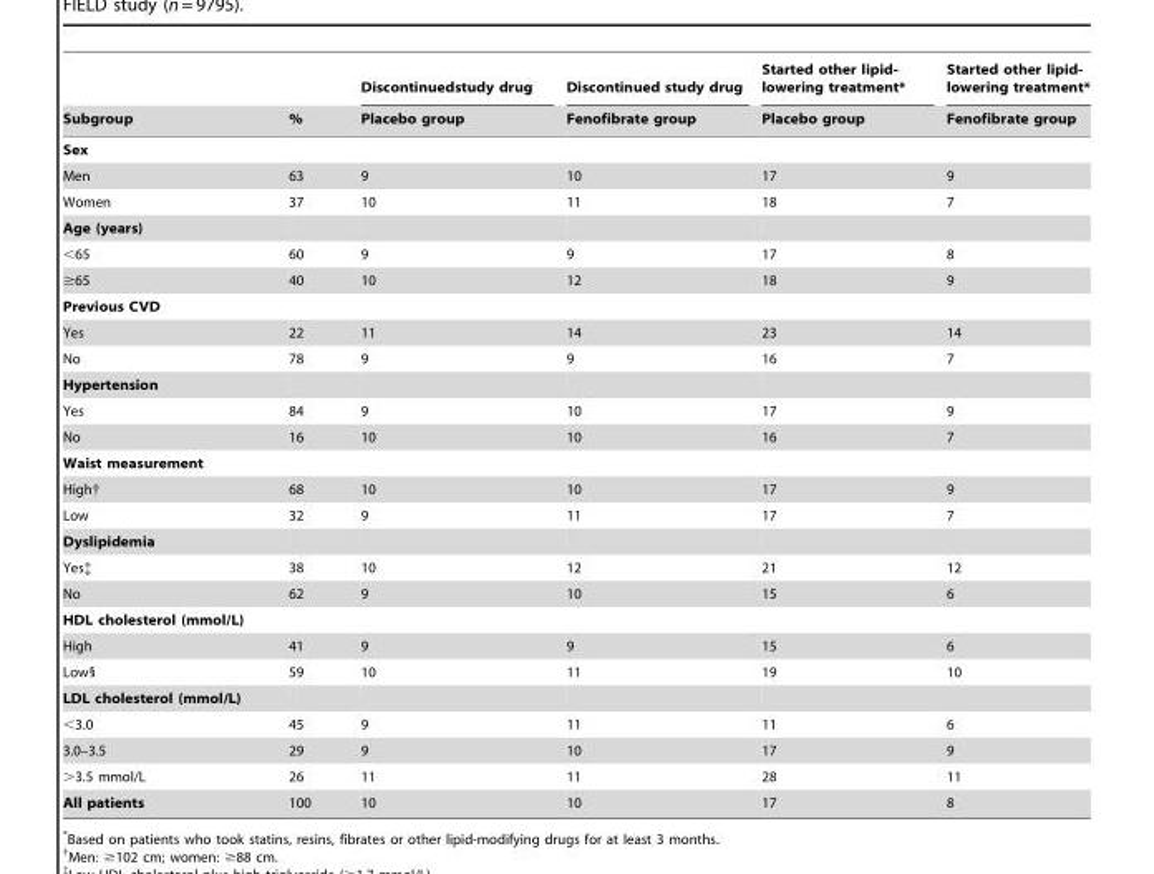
<table><thead><tr><td rowspan="2">Subgroup</td><td rowspan="2">%</td><td rowspan="2">Discontinuedstudy drug Placebo group</td><td rowspan="2">Discontinued study drug Fenofibrate group</td><td rowspan="2">Started other lipid- lowering treatment* Placebo group</td><td rowspan="2">Started other lipid- lowering treatment* Fenofibrate group</td></tr><tr></tr></thead><tbody><tr><td colspan="6">Sex</td></tr><tr><td>Men</td><td>63</td><td>9</td><td>10</td><td>17</td><td>9</td></tr><tr><td>Women</td><td>37</td><td>10</td><td>11</td><td>18</td><td>7</td></tr><tr><td colspan="6">Age (years)</td></tr><tr><td>&lt;65</td><td>60</td><td>9</td><td>9</td><td>17</td><td>8</td></tr><tr><td>≥65</td><td>40</td><td>10</td><td>12</td><td>18</td><td>9</td></tr><tr><td colspan="6">Previous CVD</td></tr><tr><td>Yes</td><td>22</td><td>11</td><td>14</td><td>23</td><td>14</td></tr><tr><td>No</td><td>78</td><td>9</td><td>9</td><td>16</td><td>7</td></tr><tr><td colspan="6">Hypertension</td></tr><tr><td>Yes</td><td>84</td><td>9</td><td>10</td><td>17</td><td>9</td></tr><tr><td>No</td><td>16</td><td>10</td><td>10</td><td>16</td><td>7</td></tr><tr><td colspan="6">Waist measurement</td></tr><tr><td>High†</td><td>68</td><td>10</td><td>10</td><td>17</td><td>9</td></tr><tr><td>Low</td><td>32</td><td>9</td><td>11</td><td>17</td><td>7</td></tr><tr><td colspan="6">Dyslipidemia</td></tr><tr><td>Yes‡</td><td>38</td><td>10</td><td>12</td><td>21</td><td>12</td></tr><tr><td>No</td><td>62</td><td>9</td><td>10</td><td>15</td><td>6</td></tr><tr><td colspan="6">HDL cholesterol (mmol/L)</td></tr><tr><td>High</td><td>41</td><td>9</td><td>9</td><td>15</td><td>6</td></tr><tr><td>Low§</td><td>59</td><td>10</td><td>11</td><td>19</td><td>10</td></tr><tr><td colspan="6">LDL cholesterol (mmol/L)</td></tr><tr><td>&lt;3.0</td><td>45</td><td>9</td><td>11</td><td>11</td><td>6</td></tr><tr><td>3.0–3.5</td><td>29</td><td>9</td><td>10</td><td>17</td><td>9</td></tr><tr><td>&gt;3.5 mmol/L</td><td>26</td><td>11</td><td>11</td><td>28</td><td>11</td></tr><tr><td>All patients</td><td>100</td><td>10</td><td>10</td><td>17</td><td>8</td></tr></tbody></table>